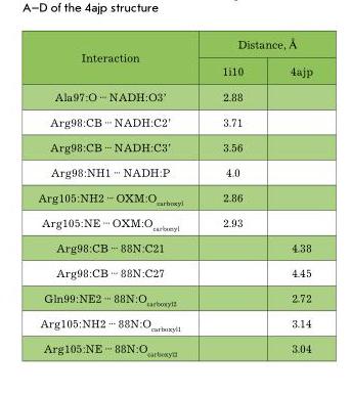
<table><thead><tr><td rowspan="2">Interaction</td><td colspan="2">Distance, Å</td></tr><tr><td>1i10</td><td>4ajp</td></tr></thead><tbody><tr><td>Ala97:O ∙∙∙ NADH:O3’</td><td>2.88</td><td></td></tr><tr><td>Arg98:CB ∙∙∙ NADH:С2’</td><td>3.71</td><td></td></tr><tr><td>Arg98:CB ∙∙∙ NADH:С3’</td><td>3.56</td><td></td></tr><tr><td>Arg98:NH1 ∙∙∙ NADH:P</td><td>4.0</td><td></td></tr><tr><td>Arg105:NH2 ∙∙∙ OXM:O<sub>carboxyl</sub></td><td>2.86</td><td></td></tr><tr><td>Arg105:NE ∙∙∙ OXM:O<sub>carbonyl</sub></td><td>2.93</td><td></td></tr><tr><td>Arg98:CB ∙∙∙ 88N:С21</td><td></td><td>4.38</td></tr><tr><td>Arg98:CB ∙∙∙ 88N:С27</td><td></td><td>4.45</td></tr><tr><td>Gln99:NE2 ∙∙∙ 88N:Ocarboxyl2</td><td></td><td>2.72</td></tr><tr><td>Arg105:NH2 ∙∙∙ 88N:Ocarboxyl1</td><td></td><td>3.14</td></tr><tr><td>Arg105:NE ∙∙∙ 88N:Ocarboxyl2</td><td></td><td>3.04</td></tr></tbody></table>